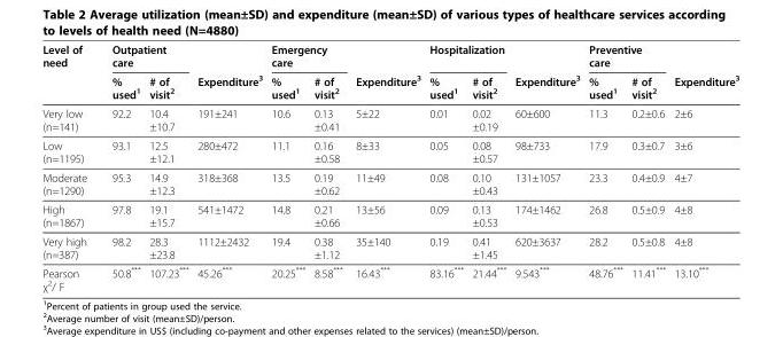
<table><thead><tr><td rowspan="2">Level of need</td><td colspan="2">Outpatient care</td><td rowspan="2">Expenditure<sup>3</sup></td><td colspan="2">Emergency care</td><td rowspan="2">Expenditure<sup>3</sup></td><td colspan="2">Hospitalization</td><td rowspan="2">Expenditure<sup>3</sup></td><td colspan="2">Preventive care</td><td rowspan="2">Expenditure<sup>3</sup></td></tr><tr><td>% used<sup>1</sup></td><td># of visit<sup>2</sup></td><td>% used<sup>1</sup></td><td># of visit<sup>2</sup></td><td>% used<sup>1</sup></td><td># of visit<sup>2</sup></td><td>% used<sup>1</sup></td><td># of visit<sup>2</sup></td></tr></thead><tbody><tr><td>Very low (n=141)</td><td>92.2</td><td>10.4 ±10.7</td><td>191±241</td><td>10.6</td><td>0.13 ±0.41</td><td>5±22</td><td>0.01</td><td>0.02 ±0.19</td><td>60±600</td><td>11.3</td><td>0.2±0.6</td><td>2±6</td></tr><tr><td>Low (n=1195)</td><td>93.1</td><td>12.5 ±12.1</td><td>280±472</td><td>11.1</td><td>0.16 ±0.58</td><td>8±33</td><td>0.05</td><td>0.08 ±0.57</td><td>98±733</td><td>17.9</td><td>0.3±0.7</td><td>3±6</td></tr><tr><td>Moderate (n=1290)</td><td>95.3</td><td>14.9 ±12.3</td><td>318±368</td><td>13.5</td><td>0.19 ±0.62</td><td>11±49</td><td>0.08</td><td>0.10 ±0.43</td><td>131±1057</td><td>23.3</td><td>0.4±0.9</td><td>4±7</td></tr><tr><td>High (n=1867)</td><td>97.8</td><td>19.1 ±15.7</td><td>541±1472</td><td>14.8</td><td>0.21 ±0.66</td><td>13±56</td><td>0.09</td><td>0.13 ±0.53</td><td>174±1462</td><td>26.8</td><td>0.5±0.9</td><td>4±8</td></tr><tr><td>Very high (n=387)</td><td>98.2</td><td>28.3 ±23.8</td><td>1112±2432</td><td>19.4</td><td>0.38 ±1.12</td><td>35±140</td><td>0.19</td><td>0.41 ±1.45</td><td>620±3637</td><td>28.2</td><td>0.5±0.8</td><td>4±8</td></tr><tr><td>Pearson χ<sup>2</sup>/ F</td><td>50.8***</td><td>107.23***</td><td>45.26***</td><td>20.25***</td><td>8.58***</td><td>16.43***</td><td>83.16***</td><td>21.44***</td><td>9.543***</td><td>48.76***</td><td>11.41***</td><td>13.10***</td></tr></tbody></table>